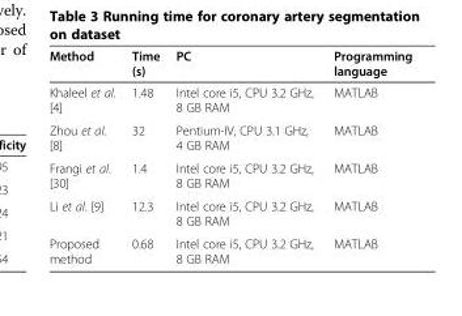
<table><thead><tr><td>Method</td><td>Time (s)</td><td>PC</td><td>Programming language</td></tr></thead><tbody><tr><td>Khaleel et al. [4]</td><td>1.48</td><td>Intel core i5, CPU 3.2 GHz, 8 GB RAM</td><td>MATLAB</td></tr><tr><td>Zhou et al. [8]</td><td>32</td><td>Pentium-IV, CPU 3.1 GHz, 4 GB RAM</td><td>MATLAB</td></tr><tr><td>Frangi et al. [30]</td><td>1.4</td><td>Intel core i5, CPU 3.2 GHz, 8 GB RAM</td><td>MATLAB</td></tr><tr><td>Li et al. [9]</td><td>12.3</td><td>Intel core i5, CPU 3.2 GHz, 8 GB RAM</td><td>MATLAB</td></tr><tr><td>Proposed method</td><td>0.68</td><td>Intel core i5, CPU 3.2 GHz, 8 GB RAM</td><td>MATLAB</td></tr></tbody></table>